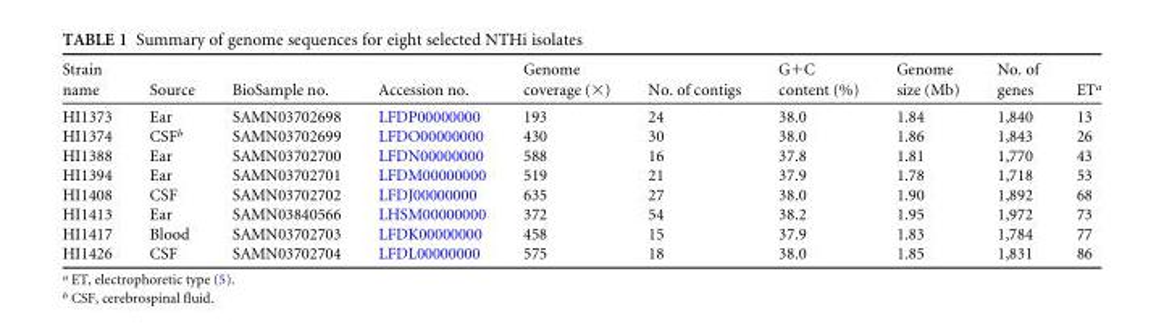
<table><thead><tr><td>Strain name</td><td>Source</td><td>BioSample no.</td><td>Accession no.</td><td>Genome coverage (×)</td><td>No. of contigs</td><td>G+C content (%)</td><td>Genome size (Mb)</td><td>No. of genes</td><td>ET<sup>a</sup></td></tr></thead><tbody><tr><td>HI1373</td><td>Ear</td><td>SAMN03702698</td><td>LFDP00000000</td><td>193</td><td>24</td><td>38.0</td><td>1.84</td><td>1,840</td><td>13</td></tr><tr><td>HI1374</td><td>CSF<sup>b</sup></td><td>SAMN03702699</td><td>LFDO00000000</td><td>430</td><td>30</td><td>38.0</td><td>1.86</td><td>1,843</td><td>26</td></tr><tr><td>HI1388</td><td>Ear</td><td>SAMN03702700</td><td>LFDN00000000</td><td>588</td><td>16</td><td>37.8</td><td>1.81</td><td>1,770</td><td>43</td></tr><tr><td>HI1394</td><td>Ear</td><td>SAMN03702701</td><td>LFDM00000000</td><td>519</td><td>21</td><td>37.9</td><td>1.78</td><td>1,718</td><td>53</td></tr><tr><td>HI1408</td><td>CSF</td><td>SAMN03702702</td><td>LFDJ00000000</td><td>635</td><td>27</td><td>38.0</td><td>1.90</td><td>1,892</td><td>68</td></tr><tr><td>HI1413</td><td>Ear</td><td>SAMN03840566</td><td>LHSM00000000</td><td>372</td><td>54</td><td>38.2</td><td>1.95</td><td>1,972</td><td>73</td></tr><tr><td>HI1417</td><td>Blood</td><td>SAMN03702703</td><td>LFDK00000000</td><td>458</td><td>15</td><td>37.9</td><td>1.83</td><td>1,784</td><td>77</td></tr><tr><td>HI1426</td><td>CSF</td><td>SAMN03702704</td><td>LFDL00000000</td><td>575</td><td>18</td><td>38.0</td><td>1.85</td><td>1,831</td><td>86</td></tr></tbody></table>